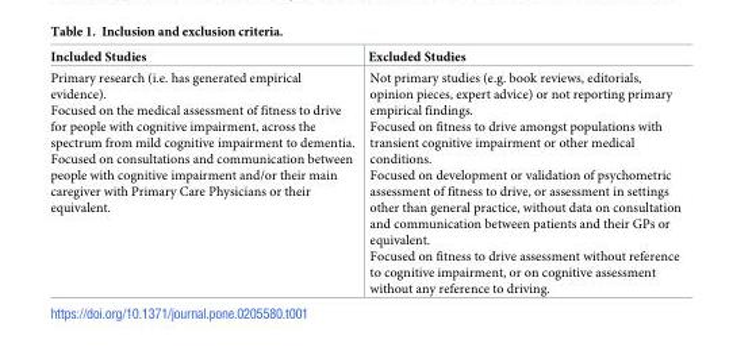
<table><thead><tr><td>Included Studies</td><td>Excluded Studies</td></tr></thead><tbody><tr><td>Primary research (i.e. has generated empirical evidence). Focused on the medical assessment of fitness to drive for people with cognitive impairment, across the spectrum from mild cognitive impairment to dementia. Focused on consultations and communication between people with cognitive impairment and/or their main caregiver with Primary Care Physicians or their equivalent.</td><td>Not primary studies (e.g. book reviews, editorials, opinion pieces, expert advice) or not reporting primary empirical findings. Focused on fitness to drive amongst populations with transient cognitive impairment or other medical conditions. Focused on development or validation of psychometric assessment of fitness to drive, or assessment in settings other than general practice, without data on consultation and communication between patients and their GPs or equivalent. Focused on fitness to drive assessment without reference to cognitive impairment, or on cognitive assessment without any reference to driving.</td></tr></tbody></table>